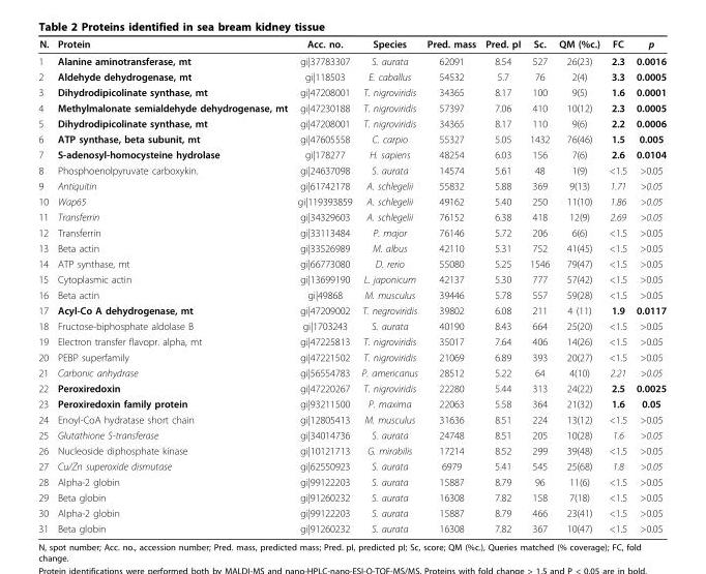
<table><thead><tr><td>N.</td><td>Protein</td><td>Acc. no.</td><td>Species</td><td>Pred. mass</td><td>Pred. pI</td><td>Sc.</td><td>QM (%c.)</td><td>FC</td><td>p</td></tr></thead><tbody><tr><td>1</td><td>Alanine aminotransferase, mt</td><td>gi|37783307</td><td>S. aurata</td><td>62091</td><td>8.54</td><td>527</td><td>26(23)</td><td>2.3</td><td>0.0016</td></tr><tr><td>2</td><td>Aldehyde dehydrogenase, mt</td><td>gi|118503</td><td>E. caballus</td><td>54532</td><td>5.7</td><td>76</td><td>2(4)</td><td>3.3</td><td>0.0005</td></tr><tr><td>3</td><td>Dihydrodipicolinate synthase, mt</td><td>gi|47208001</td><td>T. nigroviridis</td><td>34365</td><td>8.17</td><td>100</td><td>9(5)</td><td>1.6</td><td>0.0001</td></tr><tr><td>4</td><td>Methylmalonate semialdehyde dehydrogenase, mt</td><td>gi|47230188</td><td>T. nigroviridis</td><td>57397</td><td>7.06</td><td>410</td><td>10(12)</td><td>2.3</td><td>0.0005</td></tr><tr><td>5</td><td>Dihydrodipicolinate synthase, mt</td><td>gi|47208001</td><td>T. nigroviridis</td><td>34365</td><td>8.17</td><td>110</td><td>9(6)</td><td>2.2</td><td>0.0006</td></tr><tr><td>6</td><td>ATP synthase, beta subunit, mt</td><td>gi|47605558</td><td>C. carpio</td><td>55327</td><td>5.05</td><td>1432</td><td>76(46)</td><td>1.5</td><td>0.005</td></tr><tr><td>7</td><td>S-adenosyl-homocysteine hydrolase</td><td>gi|178277</td><td>H. sapiens</td><td>48254</td><td>6.03</td><td>156</td><td>7(6)</td><td>2.6</td><td>0.0104</td></tr><tr><td>8</td><td>Phosphoenolpyruvate carboxykin.</td><td>gi|24637098</td><td>S. aurata</td><td>14574</td><td>5.61</td><td>48</td><td>1(9)</td><td>&lt;1.5</td><td>&gt;0.05</td></tr><tr><td>9</td><td>Antiquitin</td><td>gi|61742178</td><td>A. schlegelii</td><td>55832</td><td>5.88</td><td>369</td><td>9(13)</td><td>1.71</td><td>&gt;0.05</td></tr><tr><td>10</td><td>Wap65</td><td>gi|119393859</td><td>A. schlegelii</td><td>49162</td><td>5.40</td><td>250</td><td>11(10)</td><td>1.86</td><td>&gt;0.05</td></tr><tr><td>11</td><td>Transferrin</td><td>gi|34329603</td><td>A. schlegelii</td><td>76152</td><td>6.38</td><td>418</td><td>12(9)</td><td>2.69</td><td>&gt;0.05</td></tr><tr><td>12</td><td>Transferrin</td><td>gi|33113484</td><td>P. major</td><td>76146</td><td>5.72</td><td>206</td><td>6(6)</td><td>&lt;1.5</td><td>&gt;0.05</td></tr><tr><td>13</td><td>Beta actin</td><td>gi|33526989</td><td>M. albus</td><td>42110</td><td>5.31</td><td>752</td><td>41(45)</td><td>&lt;1.5</td><td>&gt;0.05</td></tr><tr><td>14</td><td>ATP synthase, mt</td><td>gi|66773080</td><td>D. rerio</td><td>55080</td><td>5.25</td><td>1546</td><td>79(47)</td><td>&lt;1.5</td><td>&gt;0.05</td></tr><tr><td>15</td><td>Cytoplasmic actin</td><td>gi|13699190</td><td>L. japonicum</td><td>42137</td><td>5.30</td><td>777</td><td>57(42)</td><td>&lt;1.5</td><td>&gt;0.05</td></tr><tr><td>16</td><td>Beta actin</td><td>gi|49868</td><td>M. musculus</td><td>39446</td><td>5.78</td><td>557</td><td>59(28)</td><td>&lt;1.5</td><td>&gt;0.05</td></tr><tr><td>17</td><td>Acyl-Co A dehydrogenase, mt</td><td>gi|47209002</td><td>T. negroviridis</td><td>39802</td><td>6.08</td><td>211</td><td>4 (11)</td><td>1.9</td><td>0.0117</td></tr><tr><td>18</td><td>Fructose-biphosphate aldolase B</td><td>gi|1703243</td><td>S. aurata</td><td>40190</td><td>8.43</td><td>664</td><td>25(20)</td><td>&lt;1.5</td><td>&gt;0.05</td></tr><tr><td>19</td><td>Electron transfer flavopr. alpha, mt</td><td>gi|47225813</td><td>T. nigroviridis</td><td>35017</td><td>7.64</td><td>406</td><td>14(26)</td><td>&lt;1.5</td><td>&gt;0.05</td></tr><tr><td>20</td><td>PEBP superfamily</td><td>gi|47221502</td><td>T. nigroviridis</td><td>21069</td><td>6.89</td><td>393</td><td>20(27)</td><td>&lt;1.5</td><td>&gt;0.05</td></tr><tr><td>21</td><td>Carbonic anhydrase</td><td>gi|56554783</td><td>P. americanus</td><td>28512</td><td>5.22</td><td>64</td><td>4(10)</td><td>2.21</td><td>&gt;0.05</td></tr><tr><td>22</td><td>Peroxiredoxin</td><td>gi|47220267</td><td>T. nigroviridis</td><td>22280</td><td>5.44</td><td>313</td><td>24(22)</td><td>2.5</td><td>0.0025</td></tr><tr><td>23</td><td>Peroxiredoxin family protein</td><td>gi|93211500</td><td>P. maxima</td><td>22063</td><td>5.58</td><td>364</td><td>21(32)</td><td>1.6</td><td>0.05</td></tr><tr><td>24</td><td>Enoyl-CoA hydratase short chain</td><td>gi|12805413</td><td>M. musculus</td><td>31636</td><td>8.51</td><td>224</td><td>13(12)</td><td>&lt;1.5</td><td>&gt;0.05</td></tr><tr><td>25</td><td>Glutathione S-transferase</td><td>gi|34014736</td><td>S. aurata</td><td>24748</td><td>8.51</td><td>205</td><td>10(28)</td><td>1.6</td><td>&gt;0.05</td></tr><tr><td>26</td><td>Nucleoside diphosphate kinase</td><td>gi|10121713</td><td>G. mirabilis</td><td>17214</td><td>8.52</td><td>299</td><td>39(48)</td><td>&lt;1.5</td><td>&gt;0.05</td></tr><tr><td>27</td><td>Cu/Zn superoxide dismutase</td><td>gi|62550923</td><td>S. aurata</td><td>6979</td><td>5.41</td><td>545</td><td>25(68)</td><td>1.8</td><td>&gt;0.05</td></tr><tr><td>28</td><td>Alpha-2 globin</td><td>gi|99122203</td><td>S. aurata</td><td>15887</td><td>8.79</td><td>96</td><td>11(6)</td><td>&lt;1.5</td><td>&gt;0.05</td></tr><tr><td>29</td><td>Beta globin</td><td>gi|91260232</td><td>S. aurata</td><td>16308</td><td>7.82</td><td>158</td><td>7(18)</td><td>&lt;1.5</td><td>&gt;0.05</td></tr><tr><td>30</td><td>Alpha-2 globin</td><td>gi|99122203</td><td>S. aurata</td><td>15887</td><td>8.79</td><td>466</td><td>23(41)</td><td>&lt;1.5</td><td>&gt;0.05</td></tr><tr><td>31</td><td>Beta globin</td><td>gi|91260232</td><td>S. aurata</td><td>16308</td><td>7.82</td><td>367</td><td>10(47)</td><td>&lt;1.5</td><td>&gt;0.05</td></tr></tbody></table>